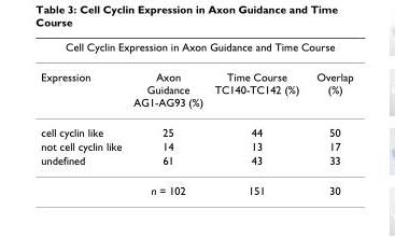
<table><thead><tr><td colspan="4">Cell Cyclin Expression in Axon Guidance and Time Course</td></tr><tr><td>Expression</td><td>Axon Guidance AG1-AG93 (%)</td><td>Time Course TC140-TC142 (%)</td><td>Overlap (%)</td></tr></thead><tbody><tr><td>cell cyclin like</td><td>25</td><td>44</td><td>50</td></tr><tr><td>not cell cyclin like</td><td>14</td><td>13</td><td>17</td></tr><tr><td rowspan="2">undefined</td><td>61</td><td>43</td><td>33</td></tr><tr><td>n = 102</td><td>151</td><td>30</td></tr></tbody></table>